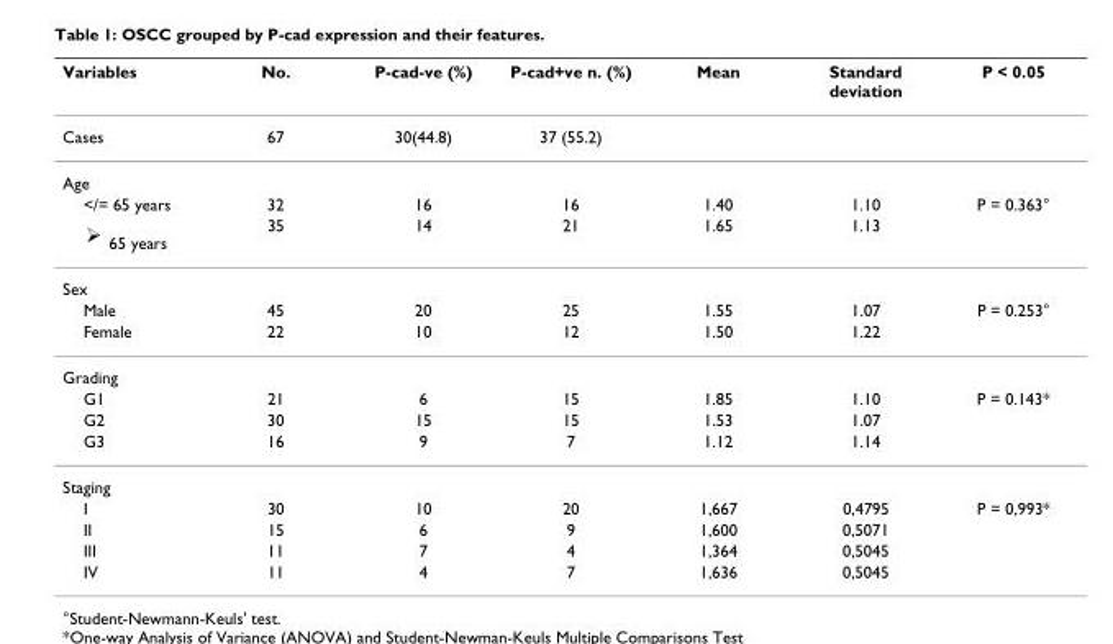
<table><thead><tr><td>Variables</td><td>No.</td><td>P-cad-ve (%)</td><td>P-cad+ve n. (%)</td><td>Mean</td><td>Standard deviation</td><td>P &lt; 0.05</td></tr></thead><tbody><tr><td>Cases</td><td>67</td><td>30(44.8)</td><td>37 (55.2)</td><td></td><td></td><td></td></tr><tr><td colspan="7">Age</td></tr><tr><td>&lt;/= 65 years</td><td>32</td><td>16</td><td>16</td><td>1.40</td><td>1.10</td><td>P = 0.363°</td></tr><tr><td>65 years �</td><td>35</td><td>14</td><td>21</td><td>1.65</td><td>1.13</td><td></td></tr><tr><td colspan="7">Sex</td></tr><tr><td>Male</td><td>45</td><td>20</td><td>25</td><td>1.55</td><td>1.07</td><td>P = 0.253°</td></tr><tr><td>Female</td><td>22</td><td>10</td><td>12</td><td>1.50</td><td>1.22</td><td></td></tr><tr><td colspan="7">Grading</td></tr><tr><td>G1</td><td>21</td><td>6</td><td>15</td><td>1.85</td><td>1.10</td><td>P = 0.143*</td></tr><tr><td>G2</td><td>30</td><td>15</td><td>15</td><td>1.53</td><td>1.07</td><td></td></tr><tr><td>G3</td><td>16</td><td>9</td><td>7</td><td>1.12</td><td>1.14</td><td></td></tr><tr><td colspan="7">Staging</td></tr><tr><td>I</td><td>30</td><td>10</td><td>20</td><td>1,667</td><td>0,4795</td><td>P = 0,993*</td></tr><tr><td>II</td><td>15</td><td>6</td><td>9</td><td>1,600</td><td>0,5071</td><td></td></tr><tr><td>III</td><td>11</td><td>7</td><td>4</td><td>1,364</td><td>0,5045</td><td></td></tr><tr><td>IV</td><td>11</td><td>4</td><td>7</td><td>1,636</td><td>0,5045</td><td></td></tr></tbody></table>